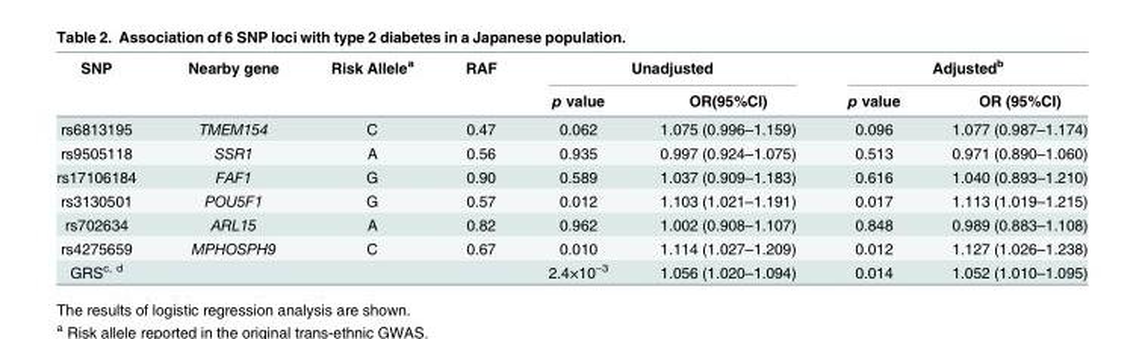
<table><thead><tr><td rowspan="2">SNP</td><td rowspan="2">Nearby gene</td><td rowspan="2">Risk Allele<sup>a</sup></td><td rowspan="2">RAF</td><td colspan="2">Unadjusted</td><td colspan="2">Adjusted<sup>b</sup></td></tr><tr><td>p value</td><td>OR(95%CI)</td><td>p value</td><td>OR (95%CI)</td></tr></thead><tbody><tr><td>rs6813195</td><td>TMEM154</td><td>C</td><td>0.47</td><td>0.062</td><td>1.075 (0.996–1.159)</td><td>0.096</td><td>1.077 (0.987–1.174)</td></tr><tr><td>rs9505118</td><td>SSR1</td><td>A</td><td>0.56</td><td>0.935</td><td>0.997 (0.924–1.075)</td><td>0.513</td><td>0.971 (0.890–1.060)</td></tr><tr><td>rs17106184</td><td>FAF1</td><td>G</td><td>0.90</td><td>0.589</td><td>1.037 (0.909–1.183)</td><td>0.616</td><td>1.040 (0.893–1.210)</td></tr><tr><td>rs3130501</td><td>POU5F1</td><td>G</td><td>0.57</td><td>0.012</td><td>1.103 (1.021–1.191)</td><td>0.017</td><td>1.113 (1.019–1.215)</td></tr><tr><td>rs702634</td><td>ARL15</td><td>A</td><td>0.82</td><td>0.962</td><td>1.002 (0.908–1.107)</td><td>0.848</td><td>0.989 (0.883–1.108)</td></tr><tr><td>rs4275659</td><td>MPHOSPH9</td><td>C</td><td>0.67</td><td>0.010</td><td>1.114 (1.027–1.209)</td><td>0.012</td><td>1.127 (1.026–1.238)</td></tr><tr><td>GRS<sup>c, d</sup></td><td></td><td></td><td></td><td>2.4×10<sup>−3</sup></td><td>1.056 (1.020–1.094)</td><td>0.014</td><td>1.052 (1.010–1.095)</td></tr></tbody></table>